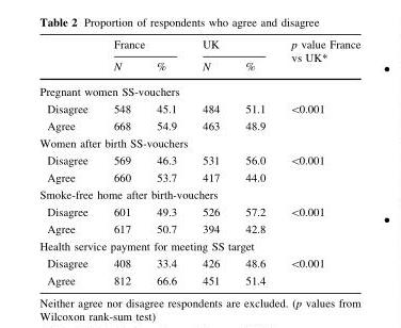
<table><thead><tr><td rowspan="2"></td><td colspan="2">France</td><td colspan="2">UK</td><td rowspan="2">p value France vs UK*</td></tr><tr><td>N</td><td>%</td><td>N</td><td>%</td></tr></thead><tbody><tr><td colspan="6">Pregnant women SS-vouchers</td></tr><tr><td>Disagree</td><td>548</td><td>45.1</td><td>484</td><td>51.1</td><td rowspan="2">&lt;0.001</td></tr><tr><td>Agree</td><td>668</td><td>54.9</td><td>463</td><td>48.9</td></tr><tr><td colspan="6">Women after birth SS-vouchers</td></tr><tr><td>Disagree</td><td>569</td><td>46.3</td><td>531</td><td>56.0</td><td rowspan="2">&lt;0.001</td></tr><tr><td>Agree</td><td>660</td><td>53.7</td><td>417</td><td>44.0</td></tr><tr><td colspan="6">Smoke-free home after birth-vouchers</td></tr><tr><td>Disagree</td><td>601</td><td>49.3</td><td>526</td><td>57.2</td><td rowspan="2">&lt;0.001</td></tr><tr><td>Agree</td><td>617</td><td>50.7</td><td>394</td><td>42.8</td></tr><tr><td colspan="6">Health service payment for meeting SS target</td></tr><tr><td>Disagree</td><td>408</td><td>33.4</td><td>426</td><td>48.6</td><td rowspan="2">&lt;0.001</td></tr><tr><td>Agree</td><td>812</td><td>66.6</td><td>451</td><td>51.4</td></tr></tbody></table>